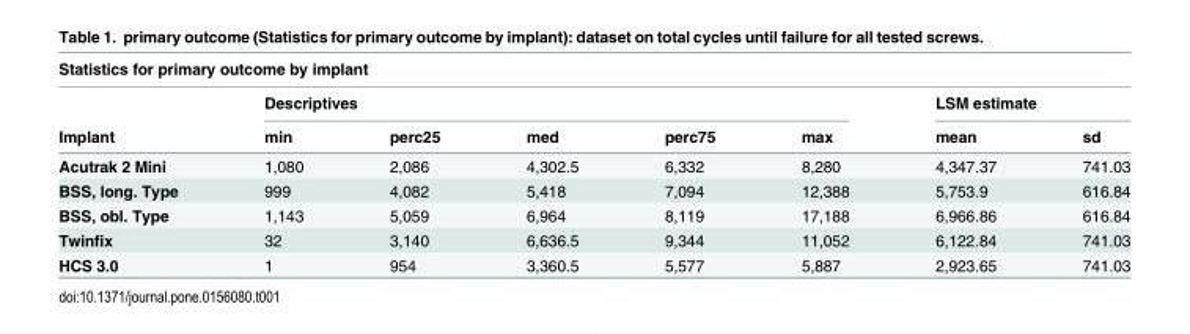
<table><thead><tr><td colspan="8">Statistics for primary outcome by implant</td></tr><tr><td rowspan="2">Implant</td><td colspan="5">Descriptives</td><td colspan="2">LSM estimate</td></tr><tr><td>min</td><td>perc25</td><td>med</td><td>perc75</td><td>max</td><td>mean</td><td>sd</td></tr></thead><tbody><tr><td>Acutrak 2 Mini</td><td>1,080</td><td>2,086</td><td>4,302.5</td><td>6,332</td><td>8,280</td><td>4,347.37</td><td>741.03</td></tr><tr><td>BSS, long. Type</td><td>999</td><td>4,082</td><td>5,418</td><td>7,094</td><td>12,388</td><td>5,753.9</td><td>616.84</td></tr><tr><td>BSS, obl. Type</td><td>1,143</td><td>5,059</td><td>6,964</td><td>8,119</td><td>17,188</td><td>6,966.86</td><td>616.84</td></tr><tr><td>Twinfix</td><td>32</td><td>3,140</td><td>6,636.5</td><td>9,344</td><td>11,052</td><td>6,122.84</td><td>741.03</td></tr><tr><td>HCS 3.0</td><td>1</td><td>954</td><td>3,360.5</td><td>5,577</td><td>5,887</td><td>2,923.65</td><td>741.03</td></tr></tbody></table>